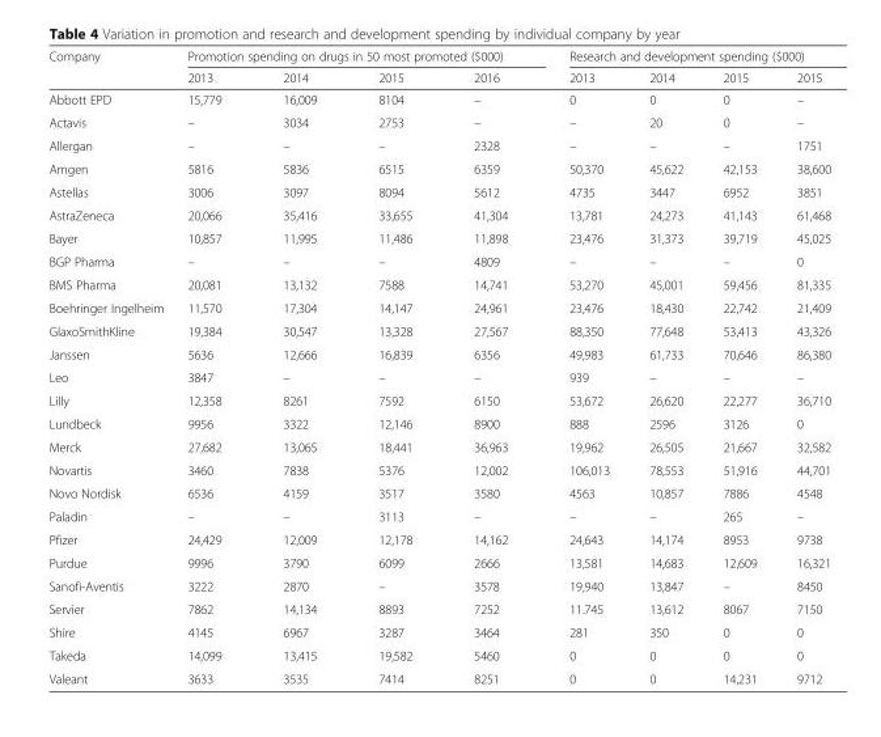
<table><thead><tr><td rowspan="2">Company</td><td colspan="4">Promotion spending on drugs in 50 most promoted ($000)</td><td colspan="4">Research and development spending ($000)</td></tr><tr><td>2013</td><td>2014</td><td>2015</td><td>2016</td><td>2013</td><td>2014</td><td>2015</td><td>2015</td></tr></thead><tbody><tr><td>Abbott EPD</td><td>15,779</td><td>16,009</td><td>8104</td><td>–</td><td>0</td><td>0</td><td>0</td><td>–</td></tr><tr><td>Actavis</td><td>–</td><td>3034</td><td>2753</td><td>–</td><td>–</td><td>20</td><td>0</td><td>–</td></tr><tr><td>Allergan</td><td>–</td><td>–</td><td>–</td><td>2328</td><td>–</td><td>–</td><td>–</td><td>1751</td></tr><tr><td>Amgen</td><td>5816</td><td>5836</td><td>6515</td><td>6359</td><td>50,370</td><td>45,622</td><td>42,153</td><td>38,600</td></tr><tr><td>Astellas</td><td>3006</td><td>3097</td><td>8094</td><td>5612</td><td>4735</td><td>3447</td><td>6952</td><td>3851</td></tr><tr><td>AstraZeneca</td><td>20,066</td><td>35,416</td><td>33,655</td><td>41,304</td><td>13,781</td><td>24,273</td><td>41,143</td><td>61,468</td></tr><tr><td>Bayer</td><td>10,857</td><td>11,995</td><td>11,486</td><td>11,898</td><td>23,476</td><td>31,373</td><td>39,719</td><td>45,025</td></tr><tr><td>BGP Pharma</td><td>–</td><td>–</td><td>–</td><td>4809</td><td>–</td><td>–</td><td>–</td><td>0</td></tr><tr><td>BMS Pharma</td><td>20,081</td><td>13,132</td><td>7588</td><td>14,741</td><td>53,270</td><td>45,001</td><td>59,456</td><td>81,335</td></tr><tr><td>Boehringer Ingelheim</td><td>11,570</td><td>17,304</td><td>14,147</td><td>24,961</td><td>23,476</td><td>18,430</td><td>22,742</td><td>21,409</td></tr><tr><td>GlaxoSmithKline</td><td>19,384</td><td>30,547</td><td>13,328</td><td>27,567</td><td>88,350</td><td>77,648</td><td>53,413</td><td>43,326</td></tr><tr><td>Janssen</td><td>5636</td><td>12,666</td><td>16,839</td><td>6356</td><td>49,983</td><td>61,733</td><td>70,646</td><td>86,380</td></tr><tr><td>Leo</td><td>3847</td><td>–</td><td>–</td><td>–</td><td>939</td><td>–</td><td>–</td><td>–</td></tr><tr><td>Lilly</td><td>12,358</td><td>8261</td><td>7592</td><td>6150</td><td>53,672</td><td>26,620</td><td>22,277</td><td>36,710</td></tr><tr><td>Lundbeck</td><td>9956</td><td>3322</td><td>12,146</td><td>8900</td><td>888</td><td>2596</td><td>3126</td><td>0</td></tr><tr><td>Merck</td><td>27,682</td><td>13,065</td><td>18,441</td><td>36,963</td><td>19,962</td><td>26,505</td><td>21,667</td><td>32,582</td></tr><tr><td>Novartis</td><td>3460</td><td>7838</td><td>5376</td><td>12,002</td><td>106,013</td><td>78,553</td><td>51,916</td><td>44,701</td></tr><tr><td>Novo Nordisk</td><td>6536</td><td>4159</td><td>3517</td><td>3580</td><td>4563</td><td>10,857</td><td>7886</td><td>4548</td></tr><tr><td>Paladin</td><td>–</td><td>–</td><td>3113</td><td>–</td><td>–</td><td>–</td><td>265</td><td>–</td></tr><tr><td>Pfizer</td><td>24,429</td><td>12,009</td><td>12,178</td><td>14,162</td><td>24,643</td><td>14,174</td><td>8953</td><td>9738</td></tr><tr><td>Purdue</td><td>9996</td><td>3790</td><td>6099</td><td>2666</td><td>13,581</td><td>14,683</td><td>12,609</td><td>16,321</td></tr><tr><td>Sanofi-Aventis</td><td>3222</td><td>2870</td><td>–</td><td>3578</td><td>19,940</td><td>13,847</td><td>–</td><td>8450</td></tr><tr><td>Servier</td><td>7862</td><td>14,134</td><td>8893</td><td>7252</td><td>11.745</td><td>13,612</td><td>8067</td><td>7150</td></tr><tr><td>Shire</td><td>4145</td><td>6967</td><td>3287</td><td>3464</td><td>281</td><td>350</td><td>0</td><td>0</td></tr><tr><td>Takeda</td><td>14,099</td><td>13,415</td><td>19,582</td><td>5460</td><td>0</td><td>0</td><td>0</td><td>0</td></tr><tr><td>Valeant</td><td>3633</td><td>3535</td><td>7414</td><td>8251</td><td>0</td><td>0</td><td>14,231</td><td>9712</td></tr></tbody></table>